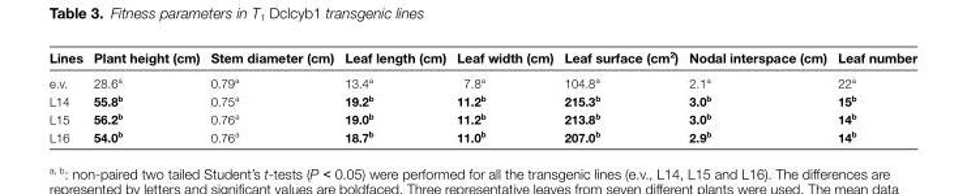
<table><thead><tr><td>Lines</td><td>Plant height (cm)</td><td>Stem diameter (cm)</td><td>Leaf length (cm)</td><td>Leaf width (cm)</td><td>Leaf surface (cm<sup>2</sup>)</td><td>Nodal interspace (cm)</td><td>Leaf number</td></tr></thead><tbody><tr><td>e.v.</td><td>28.6<sup>a</sup></td><td>0.79<sup>a</sup></td><td>13.4<sup>a</sup></td><td>7.8<sup>a</sup></td><td>104.8<sup>a</sup></td><td>2.1<sup>a</sup></td><td>22<sup>a</sup></td></tr><tr><td>L14</td><td>55.8<sup>b</sup></td><td>0.75<sup>a</sup></td><td>19.2<sup>b</sup></td><td>11.2<sup>b</sup></td><td>215.3<sup>b</sup></td><td>3.0<sup>b</sup></td><td>15<sup>b</sup></td></tr><tr><td>L15</td><td>56.2<sup>b</sup></td><td>0.76<sup>a</sup></td><td>19.0<sup>b</sup></td><td>11.2<sup>b</sup></td><td>213.8<sup>b</sup></td><td>3.0<sup>b</sup></td><td>14<sup>b</sup></td></tr><tr><td>L16</td><td>54.0<sup>b</sup></td><td>0.76<sup>a</sup></td><td>18.7<sup>b</sup></td><td>11.0<sup>b</sup></td><td>207.0<sup>b</sup></td><td>2.9<sup>b</sup></td><td>14<sup>b</sup></td></tr></tbody></table>